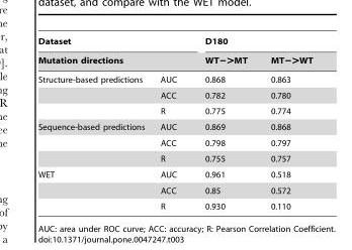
<table><thead><tr><td rowspan="2" colspan="2">Dataset Mutation directions</td><td colspan="2">D180</td></tr><tr><td rowspan="2">WT−&gt;MT 0.868</td><td rowspan="2">MT−&gt;WT 0.863</td></tr><tr><td>Structure-based predictions</td><td>AUC</td></tr></thead><tbody><tr><td></td><td>ACC</td><td>0.782</td><td>0.780</td></tr><tr><td></td><td>R</td><td>0.775</td><td>0.774</td></tr><tr><td rowspan="3">Sequence-based predictions</td><td>AUC</td><td>0.869</td><td>0.868</td></tr><tr><td>ACC</td><td>0.798</td><td>0.797</td></tr><tr><td>R</td><td>0.755</td><td>0.757</td></tr><tr><td rowspan="3">WET</td><td>AUC</td><td>0.961</td><td>0.518</td></tr><tr><td>ACC</td><td>0.85</td><td>0.572</td></tr><tr><td>R</td><td>0.930</td><td>0.110</td></tr></tbody></table>